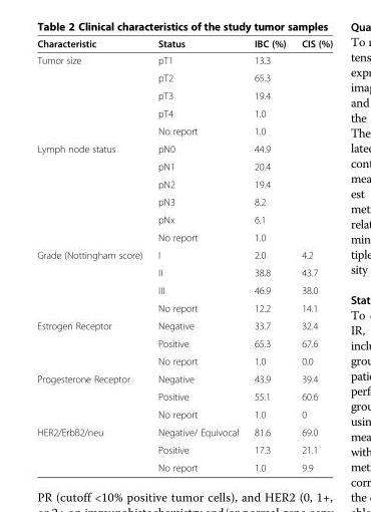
<table><thead><tr><td>Characteristic</td><td>Status</td><td>IBC (%)</td><td>CIS (%)</td></tr></thead><tbody><tr><td rowspan="5">Tumor size</td><td>pT1</td><td>13.3</td><td></td></tr><tr><td>pT2</td><td>65.3</td><td></td></tr><tr><td>pT3</td><td>19.4</td><td></td></tr><tr><td>pT4</td><td>1.0</td><td></td></tr><tr><td>No report</td><td>1.0</td><td></td></tr><tr><td rowspan="6">Lymph node status</td><td>pN0</td><td>44.9</td><td></td></tr><tr><td>pN1</td><td>20.4</td><td></td></tr><tr><td>pN2</td><td>19.4</td><td></td></tr><tr><td>pN3</td><td>8.2</td><td></td></tr><tr><td>pNx</td><td>6.1</td><td></td></tr><tr><td>No report</td><td>1.0</td><td></td></tr><tr><td rowspan="4">Grade (Nottingham score)</td><td>I</td><td>2.0</td><td>4.2</td></tr><tr><td>II</td><td>38.8</td><td>43.7</td></tr><tr><td>III</td><td>46.9</td><td>38.0</td></tr><tr><td>No report</td><td>12.2</td><td>14.1</td></tr><tr><td rowspan="3">Estrogen Receptor</td><td>Negative</td><td>33.7</td><td>32.4</td></tr><tr><td>Positive</td><td>65.3</td><td>67.6</td></tr><tr><td>No report</td><td>1.0</td><td>0.0</td></tr><tr><td rowspan="3">Progesterone Receptor</td><td>Negative</td><td>43.9</td><td>39.4</td></tr><tr><td>Positive</td><td>55.1</td><td>60.6</td></tr><tr><td>No report</td><td>1.0</td><td>0</td></tr><tr><td rowspan="3">HER2/ErbB2/neu</td><td>Negative/ Equivocal</td><td>81.6</td><td>69.0</td></tr><tr><td>Positive</td><td>17.3</td><td>21.1</td></tr><tr><td>No report</td><td>1.0</td><td>9.9</td></tr></tbody></table>